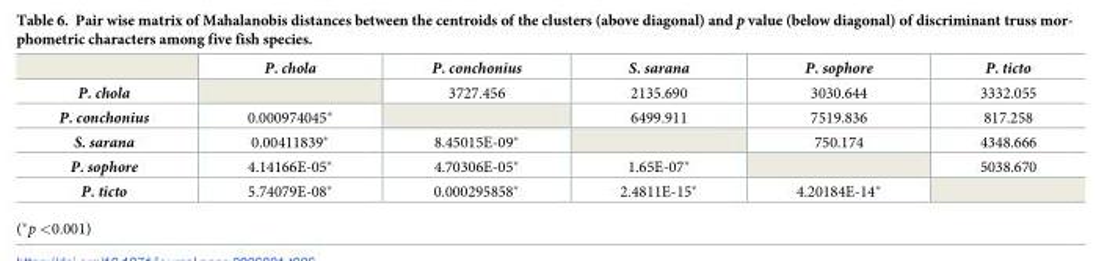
<table><thead><tr><td></td><td>P. chola</td><td>P. conchonius</td><td>S. sarana</td><td>P. sophore</td><td>P. ticto</td></tr></thead><tbody><tr><td>P. chola</td><td></td><td>3727.456</td><td>2135.690</td><td>3030.644</td><td>3332.055</td></tr><tr><td>P. conchonius</td><td>0.000974045*</td><td></td><td>6499.911</td><td>7519.836</td><td>817.258</td></tr><tr><td>S. sarana</td><td>0.00411839*</td><td>8.45015E-09*</td><td></td><td>750.174</td><td>4348.666</td></tr><tr><td>P. sophore</td><td>4.14166E-05*</td><td>4.70306E-05*</td><td>1.65E-07*</td><td></td><td>5038.670</td></tr><tr><td>P. ticto</td><td>5.74079E-08*</td><td>0.000295858*</td><td>2.4811E-15*</td><td>4.20184E-14*</td><td></td></tr></tbody></table>